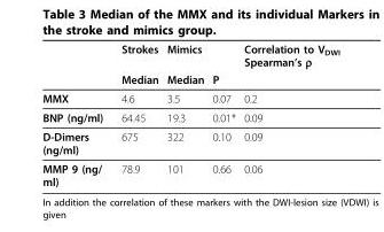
<table><thead><tr><td rowspan="2"></td><td rowspan="2">Strokes Median</td><td rowspan="2">Mimics Median</td><td rowspan="2">P</td><td rowspan="2">Correlation to V<sub>DWI</sub> Spearman’s ρ</td></tr><tr></tr></thead><tbody><tr><td>MMX</td><td>4.6</td><td>3.5</td><td>0.07</td><td>0.2</td></tr><tr><td>BNP (ng/ml)</td><td>64.45</td><td>19.3</td><td>0.01*</td><td>0.09</td></tr><tr><td>D-Dimers (ng/ml)</td><td>675</td><td>322</td><td>0.10</td><td>0.09</td></tr><tr><td>MMP 9 (ng/ ml)</td><td>78.9</td><td>101</td><td>0.66</td><td>0.06</td></tr></tbody></table>